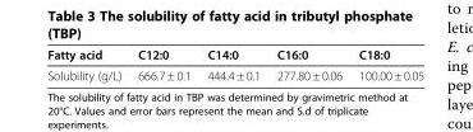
<table><thead><tr><td>Fatty acid</td><td>C12:0</td><td>C14:0</td><td>C16:0</td><td>C18:0</td></tr></thead><tbody><tr><td>Solubility (g/L)</td><td>666.7 ± 0.1</td><td>444.4 ± 0.1</td><td>277.80 ± 0.06</td><td>100.00 ± 0.05</td></tr></tbody></table>